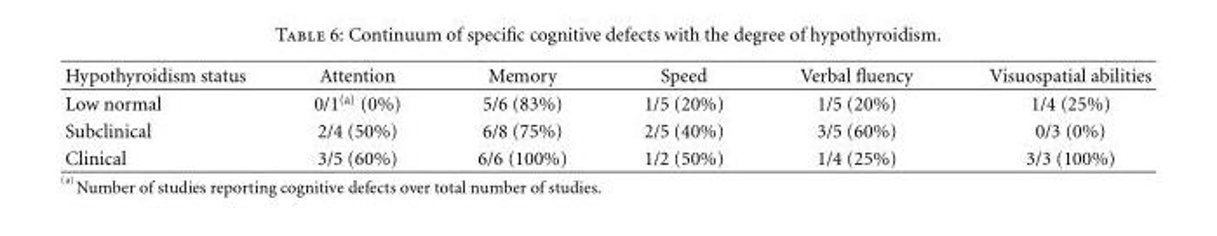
<table><thead><tr><td>Hypothyroidism status</td><td>Attention</td><td>Memory</td><td>Speed</td><td>Verbal fluency</td><td>Visuospatial abilities</td></tr></thead><tbody><tr><td>Low normal</td><td>0/1<sup>(a)</sup> (0%)</td><td>5/6 (83%)</td><td>1/5 (20%)</td><td>1/5 (20%)</td><td>1/4 (25%)</td></tr><tr><td>Subclinical</td><td>2/4 (50%)</td><td>6/8 (75%)</td><td>2/5 (40%)</td><td>3/5 (60%)</td><td>0/3 (0%)</td></tr><tr><td>Clinical</td><td>3/5 (60%)</td><td>6/6 (100%)</td><td>1/2 (50%)</td><td>1/4 (25%)</td><td>3/3 (100%)</td></tr></tbody></table>